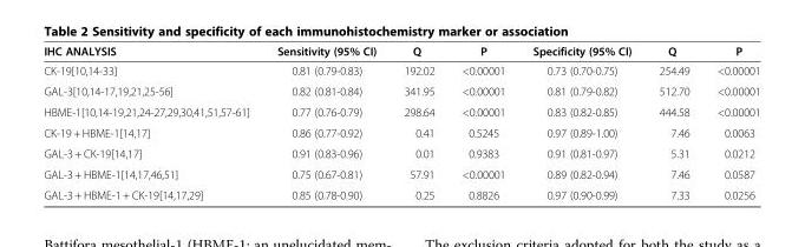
<table><thead><tr><td>IHC ANALYSIS</td><td>Sensitivity (95% CI)</td><td>Q</td><td>P</td><td>Specificity (95% CI)</td><td>Q</td><td>P</td></tr></thead><tbody><tr><td>CK-19[10,14-33]</td><td>0.81 (0.79-0.83)</td><td>192.02</td><td>&lt;0.00001</td><td>0.73 (0.70-0.75)</td><td>254.49</td><td>&lt;0.00001</td></tr><tr><td>GAL-3[10,14-17,19,21,25-56]</td><td>0.82 (0.81-0.84)</td><td>341.95</td><td>&lt;0.00001</td><td>0.81 (0.79-0.82)</td><td>512.70</td><td>&lt;0.00001</td></tr><tr><td>HBME-1[10,14-19,21,24-27,29,30,41,51,57-61]</td><td>0.77 (0.76-0.79)</td><td>298.64</td><td>&lt;0.00001</td><td>0.83 (0.82-0.85)</td><td>444.58</td><td>&lt;0.00001</td></tr><tr><td>CK-19 + HBME-1[14,17]</td><td>0.86 (0.77-0.92)</td><td>0.41</td><td>0.5245</td><td>0.97 (0.89-1.00)</td><td>7.46</td><td>0.0063</td></tr><tr><td>GAL-3 + CK-19[14,17]</td><td>0.91 (0.83-0.96)</td><td>0.01</td><td>0.9383</td><td>0.91 (0.81-0.97)</td><td>5.31</td><td>0.0212</td></tr><tr><td>GAL-3 + HBME-1[14,17,46,51]</td><td>0.75 (0.67-0.81)</td><td>57.91</td><td>&lt;0.00001</td><td>0.89 (0.82-0.94)</td><td>7.46</td><td>0.0587</td></tr><tr><td>GAL-3 + HBME-1 + CK-19[14,17,29]</td><td>0.85 (0.78-0.90)</td><td>0.25</td><td>0.8826</td><td>0.97 (0.90-0.99)</td><td>7.33</td><td>0.0256</td></tr></tbody></table>